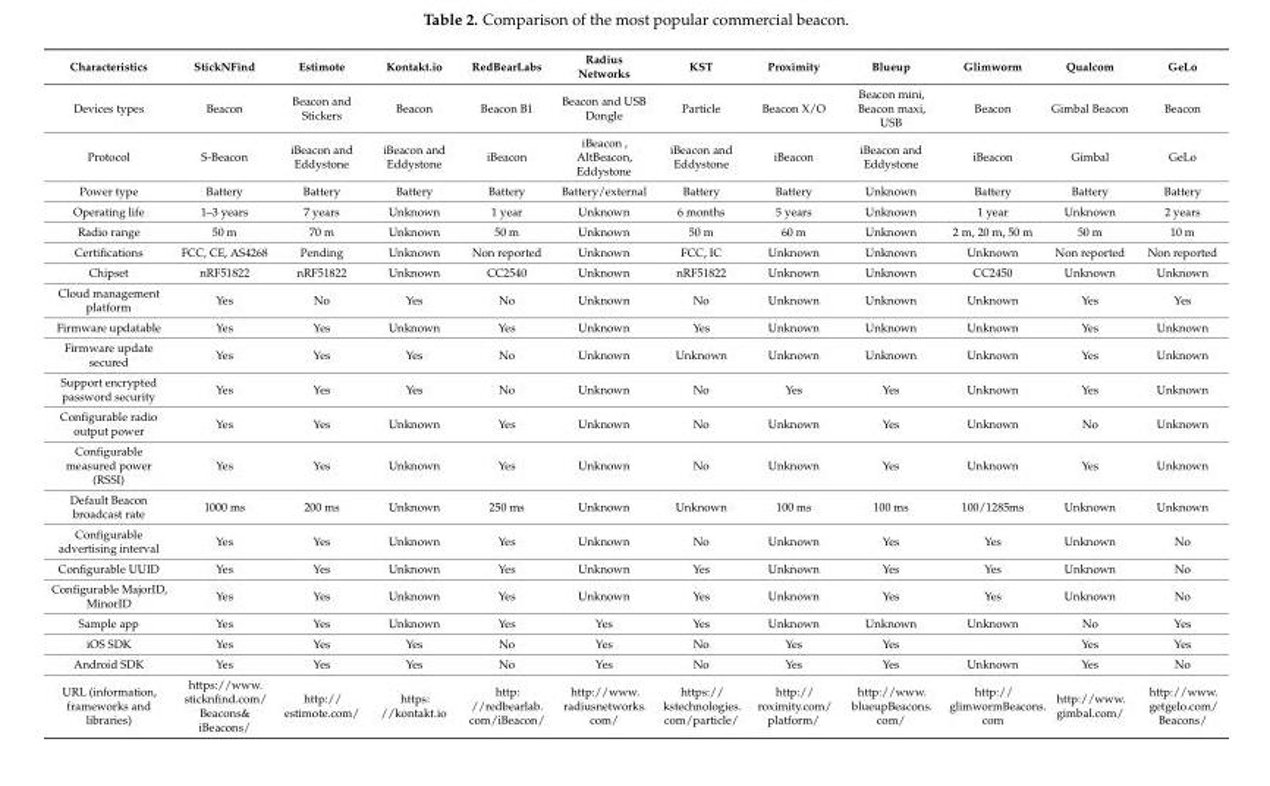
<table><thead><tr><td>Characteristics</td><td>StickNFind</td><td>Estimote</td><td>Kontakt.io</td><td>RedBearLabs</td><td>Radius Networks</td><td>KST</td><td>Proximity</td><td>Blueup</td><td>Glimworm</td><td>Qualcom</td><td>GeLo</td></tr></thead><tbody><tr><td>Devices types</td><td>Beacon</td><td>Beacon and Stickers</td><td>Beacon</td><td>Beacon B1</td><td>Beacon and USB Dongle</td><td>Particle</td><td>Beacon X/O</td><td>Beacon mini, Beacon maxi, USB</td><td>Beacon</td><td>Gimbal Beacon</td><td>Beacon</td></tr><tr><td>Protocol</td><td>S-Beacon</td><td>iBeacon and Eddystone</td><td>iBeacon and Eddystone</td><td>iBeacon</td><td>iBeacon , AltBeacon, Eddystone</td><td>iBeacon and Eddystone</td><td>iBeacon</td><td>iBeacon and Eddystone</td><td>iBeacon</td><td>Gimbal</td><td>GeLo</td></tr><tr><td>Power type</td><td>Battery</td><td>Battery</td><td>Battery</td><td>Battery</td><td>Battery/external</td><td>Battery</td><td>Battery</td><td>Unknown</td><td>Battery</td><td>Battery</td><td>Battery</td></tr><tr><td>Operating life</td><td>1–3 years</td><td>7 years</td><td>Unknown</td><td>1 year</td><td>Unknown</td><td>6 months</td><td>5 years</td><td>Unknown</td><td>1 year</td><td>Unknown</td><td>2 years</td></tr><tr><td>Radio range</td><td>50 m</td><td>70 m</td><td>Unknown</td><td>50 m</td><td>Unknown</td><td>50 m</td><td>60 m</td><td>Unknown</td><td>2 m, 20 m, 50 m</td><td>50 m</td><td>10 m</td></tr><tr><td>Certifications</td><td>FCC, CE, AS4268</td><td>Pending</td><td>Unknown</td><td>Non reported</td><td>Unknown</td><td>FCC, IC</td><td>Unknown</td><td>Unknown</td><td>Unknown</td><td>Non reported</td><td>Non reported</td></tr><tr><td>Chipset</td><td>nRF51822</td><td>nRF51822</td><td>Unknown</td><td>CC2540</td><td>Unknown</td><td>nRF51822</td><td>Unknown</td><td>Unknown</td><td>CC2450</td><td>Unknown</td><td>Unknown</td></tr><tr><td>Cloud management platform</td><td>Yes</td><td>No</td><td>Yes</td><td>No</td><td>Unknown</td><td>No</td><td>Unknown</td><td>Unknown</td><td>Unknown</td><td>Yes</td><td>Yes</td></tr><tr><td>Firmware updatable</td><td>Yes</td><td>Yes</td><td>Unknown</td><td>Yes</td><td>Unknown</td><td>Yes</td><td>Unknown</td><td>Unknown</td><td>Unknown</td><td>Yes</td><td>Unknown</td></tr><tr><td>Firmware update secured</td><td>Yes</td><td>Yes</td><td>Yes</td><td>No</td><td>Unknown</td><td>Unknown</td><td>Unknown</td><td>Unknown</td><td>Unknown</td><td>Yes</td><td>Unknown</td></tr><tr><td>Support encrypted password security</td><td>Yes</td><td>Yes</td><td>Yes</td><td>No</td><td>Unknown</td><td>No</td><td>Yes</td><td>Yes</td><td>Unknown</td><td>Yes</td><td>Unknown</td></tr><tr><td>Configurable radio output power</td><td>Yes</td><td>Yes</td><td>Unknown</td><td>Yes</td><td>Unknown</td><td>No</td><td>Unknown</td><td>Yes</td><td>Unknown</td><td>No</td><td>Unknown</td></tr><tr><td>Configurable measured power (RSSI)</td><td>Yes</td><td>Yes</td><td>Unknown</td><td>Yes</td><td>Unknown</td><td>No</td><td>Unknown</td><td>Yes</td><td>Unknown</td><td>Yes</td><td>Unknown</td></tr><tr><td>Default Beacon broadcast rate</td><td>1000 ms</td><td>200 ms</td><td>Unknown</td><td>250 ms</td><td>Unknown</td><td>Unknown</td><td>100 ms</td><td>100 ms</td><td>100/1285ms</td><td>Unknown</td><td>Unknown</td></tr><tr><td>Configurable advertising interval</td><td>Yes</td><td>Yes</td><td>Unknown</td><td>Yes</td><td>Unknown</td><td>No</td><td>Unknown</td><td>Yes</td><td>Yes</td><td>Unknown</td><td>No</td></tr><tr><td>Configurable UUID</td><td>Yes</td><td>Yes</td><td>Unknown</td><td>Yes</td><td>Unknown</td><td>Yes</td><td>Unknown</td><td>Yes</td><td>Yes</td><td>Unknown</td><td>No</td></tr><tr><td>Configurable MajorID, MinorID</td><td>Yes</td><td>Yes</td><td>Unknown</td><td>Yes</td><td>Unknown</td><td>Yes</td><td>Unknown</td><td>Yes</td><td>Yes</td><td>Unknown</td><td>No</td></tr><tr><td>Sample app</td><td>Yes</td><td>Yes</td><td>Unknown</td><td>Yes</td><td>Yes</td><td>Yes</td><td>Unknown</td><td>Unknown</td><td>Unknown</td><td>No</td><td>Yes</td></tr><tr><td>iOS SDK</td><td>Yes</td><td>Yes</td><td>Yes</td><td>No</td><td>Yes</td><td>No</td><td>Yes</td><td>Yes</td><td></td><td>Yes</td><td>Yes</td></tr><tr><td>Android SDK</td><td>Yes</td><td>Yes</td><td>Yes</td><td>No</td><td>Yes</td><td>No</td><td>Yes</td><td>Yes</td><td>Unknown</td><td>Yes</td><td>No</td></tr><tr><td>URL (information, frameworks and libraries)</td><td>https://www. sticknfind.com/ Beacons&amp; iBeacons/</td><td>http:// estimote.com/</td><td>https: //kontakt.io</td><td>http: //redbearlab. com/iBeacon/</td><td>http://www. radiusnetworks. com/</td><td>https:// kstechnologies. com/particle/</td><td>http:// roximity.com/ platform/</td><td>http://www. blueupBeacons. com/</td><td>http:// glimwormBeacons. com</td><td>http://www. gimbal.com/</td><td>http://www. getgelo.com/ Beacons/</td></tr></tbody></table>